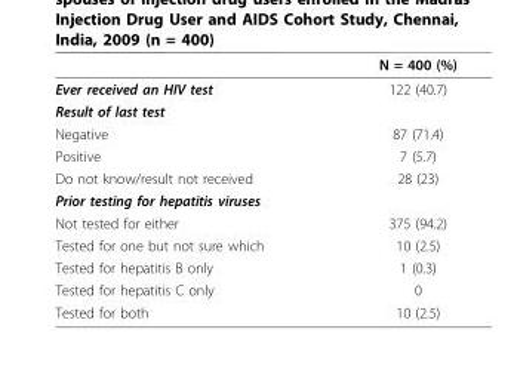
<table><thead><tr><td></td><td>N = 400 (%)</td></tr></thead><tbody><tr><td>Ever received an HIV test</td><td>122 (40.7)</td></tr><tr><td colspan="2">Result of last test</td></tr><tr><td>Negative</td><td>87 (71.4)</td></tr><tr><td>Positive</td><td>7 (5.7)</td></tr><tr><td>Do not know/result not received</td><td>28 (23)</td></tr><tr><td colspan="2">Prior testing for hepatitis viruses</td></tr><tr><td>Not tested for either</td><td>375 (94.2)</td></tr><tr><td>Tested for one but not sure which</td><td>10 (2.5)</td></tr><tr><td>Tested for hepatitis B only</td><td>1 (0.3)</td></tr><tr><td>Tested for hepatitis C only</td><td>0</td></tr><tr><td>Tested for both</td><td>10 (2.5)</td></tr></tbody></table>